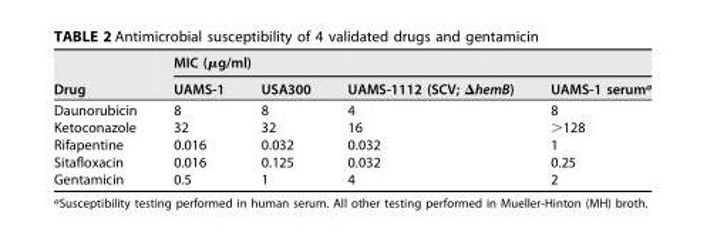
<table><thead><tr><td rowspan="2">Drug</td><td colspan="4">MIC (µg/ml)</td></tr><tr><td>UAMS-1</td><td>USA300</td><td>UAMS-1112 (SCV; ΔhemB)</td><td>UAMS-1 serum<sup>a</sup></td></tr></thead><tbody><tr><td>Daunorubicin</td><td>8</td><td>8</td><td>4</td><td>8</td></tr><tr><td>Ketoconazole</td><td>32</td><td>32</td><td>16</td><td>&gt;128</td></tr><tr><td>Rifapentine</td><td>0.016</td><td>0.032</td><td>0.032</td><td>1</td></tr><tr><td>Sitafloxacin</td><td>0.016</td><td>0.125</td><td>0.032</td><td>0.25</td></tr><tr><td>Gentamicin</td><td>0.5</td><td>1</td><td>4</td><td>2</td></tr></tbody></table>